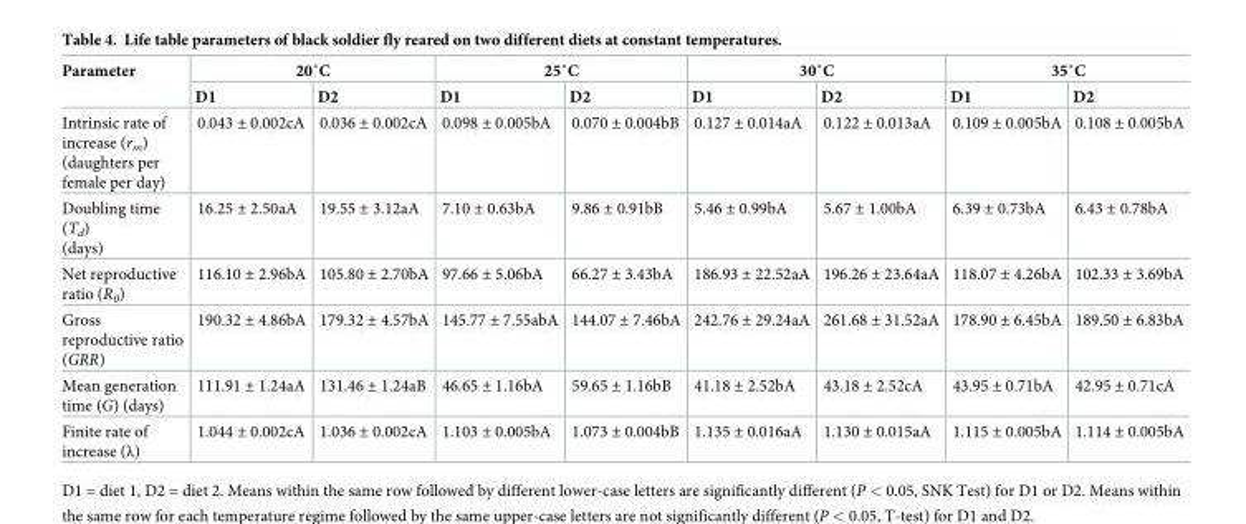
<table><thead><tr><td rowspan="2">Parameter</td><td colspan="2">20˚C</td><td colspan="2">25˚C</td><td colspan="2">30˚C</td><td colspan="2">35˚C</td></tr><tr><td>D1</td><td>D2</td><td>D1</td><td>D2</td><td>D1</td><td>D2</td><td>D1</td><td>D2</td></tr></thead><tbody><tr><td>Intrinsic rate of increase (r<sub>m</sub>) (daughters per female per day)</td><td>0.043 ± 0.002cA</td><td>0.036 ± 0.002cA</td><td>0.098 ± 0.005bA</td><td>0.070 ± 0.004bB</td><td>0.127 ± 0.014aA</td><td>0.122 ± 0.013aA</td><td>0.109 ± 0.005bA</td><td>0.108 ± 0.005bA</td></tr><tr><td>Doubling time (T<sub>d</sub>) (days)</td><td>16.25 ± 2.50aA</td><td>19.55 ± 3.12aA</td><td>7.10 ± 0.63bA</td><td>9.86 ± 0.91bB</td><td>5.46 ± 0.99bA</td><td>5.67 ± 1.00bA</td><td>6.39 ± 0.73bA</td><td>6.43 ± 0.78bA</td></tr><tr><td>Net reproductive ratio (R<sub>0</sub>)</td><td>116.10 ± 2.96bA</td><td>105.80 ± 2.70bA</td><td>97.66 ± 5.06bA</td><td>66.27 ± 3.43bA</td><td>186.93 ± 22.52aA</td><td>196.26 ± 23.64aA</td><td>118.07 ± 4.26bA</td><td>102.33 ± 3.69bA</td></tr><tr><td>Gross reproductive ratio (GRR)</td><td>190.32 ± 4.86bA</td><td>179.32 ± 4.57bA</td><td>145.77 ± 7.55abA</td><td>144.07 ± 7.46bA</td><td>242.76 ± 29.24aA</td><td>261.68 ± 31.52aA</td><td>178.90 ± 6.45bA</td><td>189.50 ± 6.83bA</td></tr><tr><td>Mean generation time (G) (days)</td><td>111.91 ± 1.24aA</td><td>131.46 ± 1.24aB</td><td>46.65 ± 1.16bA</td><td>59.65 ± 1.16bB</td><td>41.18 ± 2.52bA</td><td>43.18 ± 2.52cA</td><td>43.95 ± 0.71bA</td><td>42.95 ± 0.71cA</td></tr><tr><td>Finite rate of increase (λ)</td><td>1.044 ± 0.002cA</td><td>1.036 ± 0.002cA</td><td>1.103 ± 0.005bA</td><td>1.073 ± 0.004bB</td><td>1.135 ± 0.016aA</td><td>1.130 ± 0.015aA</td><td>1.115 ± 0.005bA</td><td>1.114 ± 0.005bA</td></tr></tbody></table>